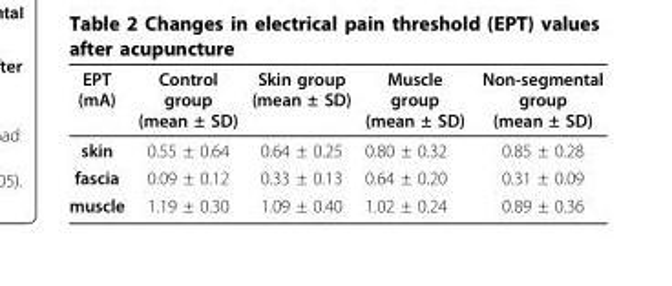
<table><thead><tr><td>EPT (mA)</td><td>Control group (mean ± SD)</td><td>Skin group (mean ± SD)</td><td>Muscle group (mean ± SD)</td><td>Non-segmental group (mean ± SD)</td></tr></thead><tbody><tr><td>skin</td><td>0.55 ± 0.64</td><td>0.64 ± 0.25</td><td>0.80 ± 0.32</td><td>0.85 ± 0.28</td></tr><tr><td>fascia</td><td>0.09 ± 0.12</td><td>0.33 ± 0.13</td><td>0.64 ± 0.20</td><td>0.31 ± 0.09</td></tr><tr><td>muscle</td><td>1.19 ± 0.30</td><td>1.09 ± 0.40</td><td>1.02 ± 0.24</td><td>0.89 ± 0.36</td></tr></tbody></table>